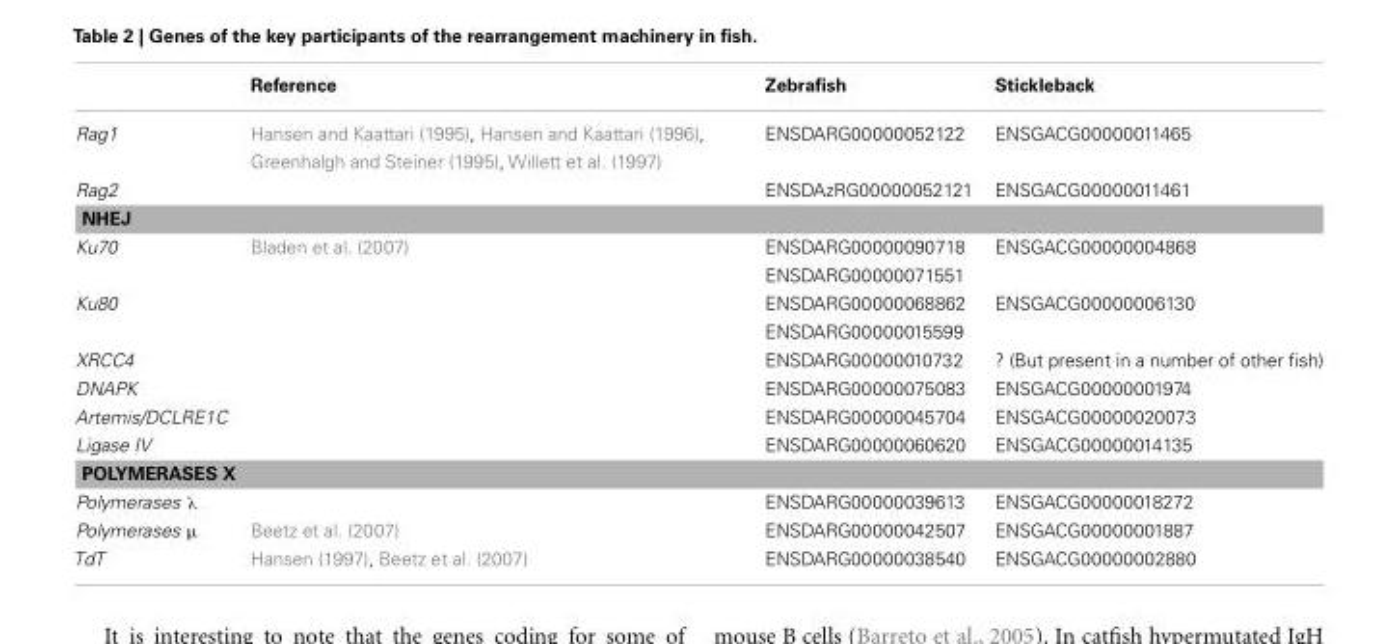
<table><thead><tr><td></td><td>Reference</td><td>Zebrafish</td><td>Stickleback</td></tr></thead><tbody><tr><td>Rag1</td><td>Hansen and Kaattari (1995), Hansen and Kaattari (1996), Greenhalgh and Steiner (1995), Willett et al. (1997)</td><td>ENSDARG00000052122</td><td>ENSGACG00000011465</td></tr><tr><td>Rag2</td><td></td><td>ENSDAzRG00000052121</td><td>ENSGACG00000011461</td></tr><tr><td colspan="4">NHEJ</td></tr><tr><td rowspan="2">Ku70</td><td>Bladen et al. (2007)</td><td>ENSDARG00000090718</td><td>ENSGACG00000004868</td></tr><tr><td></td><td>ENSDARG00000071551</td><td></td></tr><tr><td rowspan="2">Ku80</td><td></td><td>ENSDARG00000068862</td><td>ENSGACG00000006130</td></tr><tr><td></td><td>ENSDARG00000015599</td><td></td></tr><tr><td>XRCC4</td><td></td><td>ENSDARG00000010732</td><td>? (But present in a number of other fish)</td></tr><tr><td>DNAPK</td><td></td><td>ENSDARG00000075083</td><td>ENSGACG00000001974</td></tr><tr><td>Artemis/DCLRE1C</td><td></td><td>ENSDARG00000045704</td><td>ENSGACG00000020073</td></tr><tr><td>Ligase IV</td><td></td><td>ENSDARG00000060620</td><td>ENSGACG00000014135</td></tr><tr><td colspan="4">POLYMERASES X</td></tr><tr><td>Polymerases λ</td><td></td><td>ENSDARG00000039613</td><td>ENSGACG00000018272</td></tr><tr><td>Polymerases µ</td><td>Beetz et al. (2007)</td><td>ENSDARG00000042507</td><td>ENSGACG00000001887</td></tr><tr><td>TdT</td><td>Hansen (1997), Beetz et al. (2007)</td><td>ENSDARG00000038540</td><td>ENSGACG00000002880</td></tr></tbody></table>